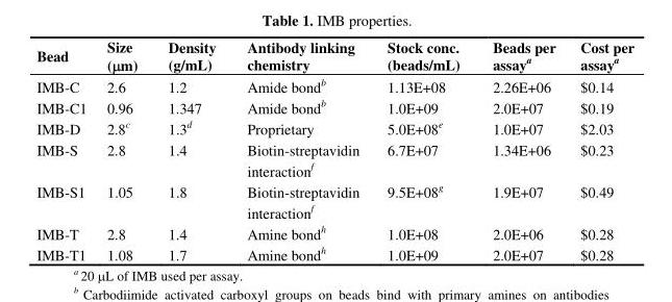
<table><thead><tr><td>Bead</td><td>Size (μm)</td><td>Density (g/mL)</td><td>Antibody linking chemistry</td><td>Stock conc. (beads/mL)</td><td>Beads per assay<sup>a</sup></td><td>Cost per assay<sup>a</sup></td></tr></thead><tbody><tr><td>IMB-C</td><td>2.6</td><td>1.2</td><td>Amide bond<sup>b</sup></td><td>1.13E+08</td><td>2.26E+06</td><td>$0.14</td></tr><tr><td>IMB-C1</td><td>0.96</td><td>1.347</td><td>Amide bond<sup>b</sup></td><td>1.0E+09</td><td>2.0E+07</td><td>$0.19</td></tr><tr><td>IMB-D</td><td>2.8<sup>c</sup></td><td>1.3<sup>d</sup></td><td>Proprietary</td><td>5.0E+08<sup>e</sup></td><td>1.0E+07</td><td>$2.03</td></tr><tr><td>IMB-S</td><td>2.8</td><td>1.4</td><td>Biotin-streptavidin interaction<sup>f</sup></td><td>6.7E+07</td><td>1.34E+06</td><td>$0.23</td></tr><tr><td>IMB-S1</td><td>1.05</td><td>1.8</td><td>Biotin-streptavidin interaction<sup>f</sup></td><td>9.5E+08<sup>g</sup></td><td>1.9E+07</td><td>$0.49</td></tr><tr><td>IMB-T</td><td>2.8</td><td>1.4</td><td>Amine bond<sup>h</sup></td><td>1.0E+08</td><td>2.0E+06</td><td>$0.28</td></tr><tr><td>IMB-T1</td><td>1.08</td><td>1.7</td><td>Amine bond<sup>h</sup></td><td>1.0E+09</td><td>2.0E+07</td><td>$0.28</td></tr></tbody></table>